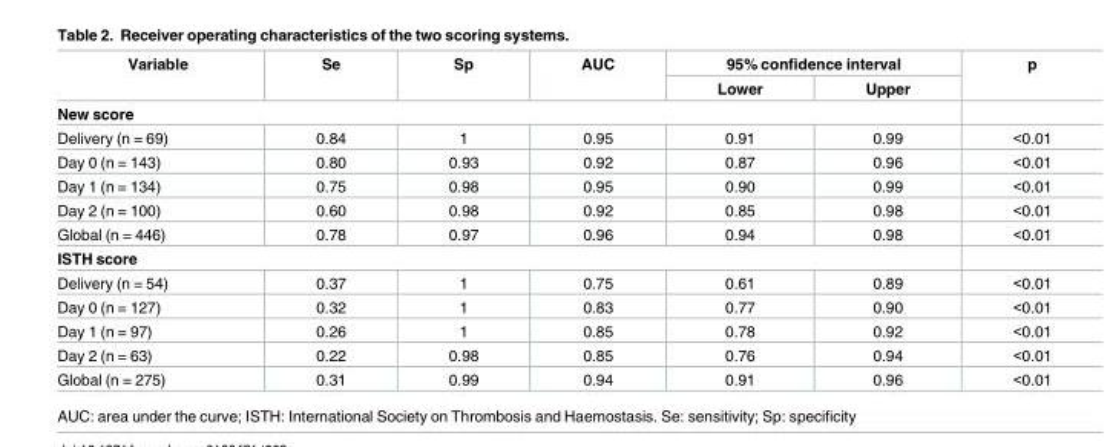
<table><thead><tr><td rowspan="2">Variable</td><td rowspan="2">Se</td><td rowspan="2">Sp</td><td rowspan="2">AUC</td><td colspan="2">95% confidence interval</td><td rowspan="2">p</td></tr><tr><td>Lower</td><td>Upper</td></tr></thead><tbody><tr><td colspan="7">New score</td></tr><tr><td>Delivery (n = 69)</td><td>0.84</td><td>1</td><td>0.95</td><td>0.91</td><td>0.99</td><td>&lt;0.01</td></tr><tr><td>Day 0 (n = 143)</td><td>0.80</td><td>0.93</td><td>0.92</td><td>0.87</td><td>0.96</td><td>&lt;0.01</td></tr><tr><td>Day 1 (n = 134)</td><td>0.75</td><td>0.98</td><td>0.95</td><td>0.90</td><td>0.99</td><td>&lt;0.01</td></tr><tr><td>Day 2 (n = 100)</td><td>0.60</td><td>0.98</td><td>0.92</td><td>0.85</td><td>0.98</td><td>&lt;0.01</td></tr><tr><td>Global (n = 446)</td><td>0.78</td><td>0.97</td><td>0.96</td><td>0.94</td><td>0.98</td><td>&lt;0.01</td></tr><tr><td colspan="7">ISTH score</td></tr><tr><td>Delivery (n = 54)</td><td>0.37</td><td>1</td><td>0.75</td><td>0.61</td><td>0.89</td><td>&lt;0.01</td></tr><tr><td>Day 0 (n = 127)</td><td>0.32</td><td>1</td><td>0.83</td><td>0.77</td><td>0.90</td><td>&lt;0.01</td></tr><tr><td>Day 1 (n = 97)</td><td>0.26</td><td>1</td><td>0.85</td><td>0.78</td><td>0.92</td><td>&lt;0.01</td></tr><tr><td>Day 2 (n = 63)</td><td>0.22</td><td>0.98</td><td>0.85</td><td>0.76</td><td>0.94</td><td>&lt;0.01</td></tr><tr><td>Global (n = 275)</td><td>0.31</td><td>0.99</td><td>0.94</td><td>0.91</td><td>0.96</td><td>&lt;0.01</td></tr></tbody></table>